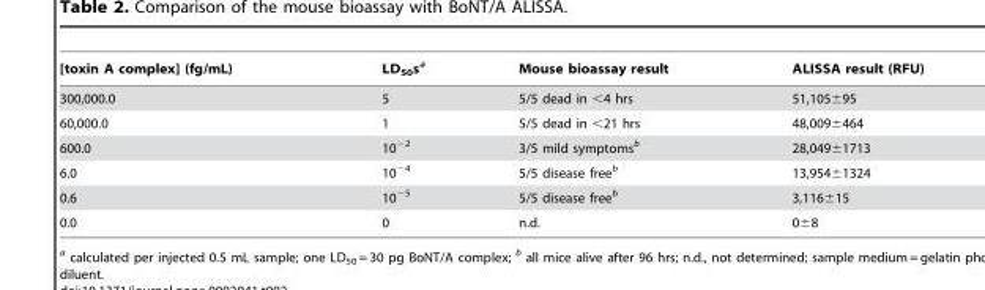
<table><thead><tr><td>[toxin A complex] (fg/mL)</td><td>LD<sub>50</sub>s<sup>a</sup></td><td>Mouse bioassay result</td><td>ALISSA result (RFU)</td></tr></thead><tbody><tr><td>300,000.0</td><td>5</td><td>5/5 dead in &lt;4 hrs</td><td>51,105±95</td></tr><tr><td>60,000.0</td><td>1</td><td>5/5 dead in &lt;21 hrs</td><td>48,009±464</td></tr><tr><td>600.0</td><td>10<sup>−2</sup></td><td>3/5 mild symptoms<sup>b</sup></td><td>28,049±1713</td></tr><tr><td>6.0</td><td>10<sup>−4</sup></td><td>5/5 disease free<sup>b</sup></td><td>13,954±1324</td></tr><tr><td>0.6</td><td>10<sup>−5</sup></td><td>5/5 disease free<sup>b</sup></td><td>3,116±15</td></tr><tr><td>0.0</td><td>0</td><td>n.d.</td><td>0±8</td></tr></tbody></table>